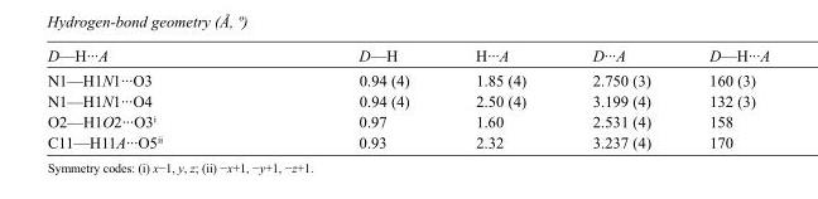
<table><tbody><tr><td>D—H···A</td><td>D—H</td><td>H···A</td><td>D···A</td><td>D—H···A</td></tr><tr><td>N1—H1N1···O3</td><td>0.94 (4)</td><td>1.85 (4)</td><td>2.750 (3)</td><td>160 (3)</td></tr><tr><td>N1—H1N1···O4</td><td>0.94 (4)</td><td>2.50 (4)</td><td>3.199 (4)</td><td>132 (3)</td></tr><tr><td>O2—H1O2···O3<sup>i</sup></td><td>0.97</td><td>1.60</td><td>2.531 (4)</td><td>158</td></tr><tr><td>C11—H11A···O5<sup>ii</sup></td><td>0.93</td><td>2.32</td><td>3.237 (4)</td><td>170</td></tr></tbody></table>